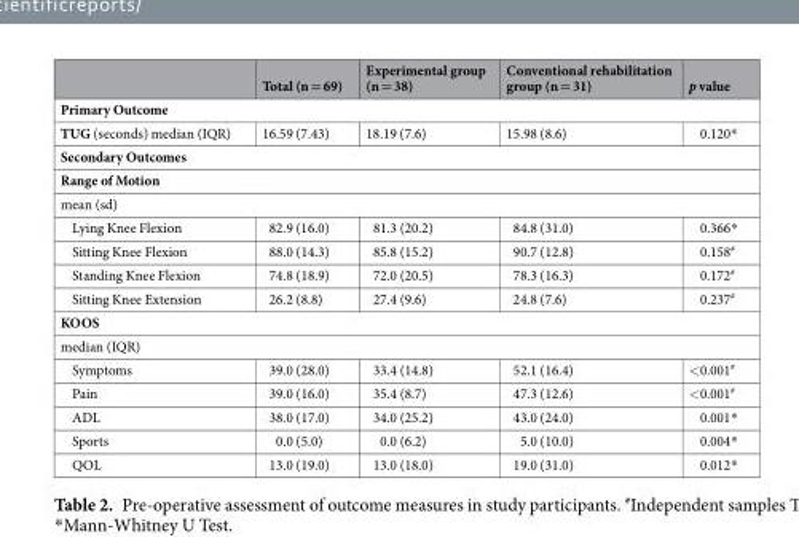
<table><thead><tr><td></td><td>Total (n = 69)</td><td>Experimental group (n = 38)</td><td>Conventional rehabilitation group (n = 31)</td><td>p value</td></tr></thead><tbody><tr><td colspan="5">Primary Outcome</td></tr><tr><td>TUG (seconds) median (IQR)</td><td>16.59 (7.43)</td><td>18.19 (7.6)</td><td>15.98 (8.6)</td><td>0.120*</td></tr><tr><td colspan="5">Secondary Outcomes</td></tr><tr><td colspan="5">Range of Motion</td></tr><tr><td colspan="5">mean (sd)</td></tr><tr><td>Lying Knee Flexion</td><td>82.9 (16.0)</td><td>81.3 (20.2)</td><td>84.8 (31.0)</td><td>0.366*</td></tr><tr><td>Sitting Knee Flexion</td><td>88.0 (14.3)</td><td>85.8 (15.2)</td><td>90.7 (12.8)</td><td>0.158<sup>#</sup></td></tr><tr><td>Standing Knee Flexion</td><td>74.8 (18.9)</td><td>72.0 (20.5)</td><td>78.3 (16.3)</td><td>0.172<sup>#</sup></td></tr><tr><td>Sitting Knee Extension</td><td>26.2 (8.8)</td><td>27.4 (9.6)</td><td>24.8 (7.6)</td><td>0.237<sup>#</sup></td></tr><tr><td colspan="5">KOOS</td></tr><tr><td colspan="5">median (IQR)</td></tr><tr><td>Symptoms</td><td>39.0 (28.0)</td><td>33.4 (14.8)</td><td>52.1 (16.4)</td><td>&lt;0.001<sup>#</sup></td></tr><tr><td>Pain</td><td>39.0 (16.0)</td><td>35.4 (8.7)</td><td>47.3 (12.6)</td><td>&lt;0.001<sup>#</sup></td></tr><tr><td>ADL</td><td>38.0 (17.0)</td><td>34.0 (25.2)</td><td>43.0 (24.0)</td><td>0.001*</td></tr><tr><td>Sports</td><td>0.0 (5.0)</td><td>0.0 (6.2)</td><td>5.0 (10.0)</td><td>0.004*</td></tr><tr><td>QOL</td><td>13.0 (19.0)</td><td>13.0 (18.0)</td><td>19.0 (31.0)</td><td>0.012*</td></tr></tbody></table>